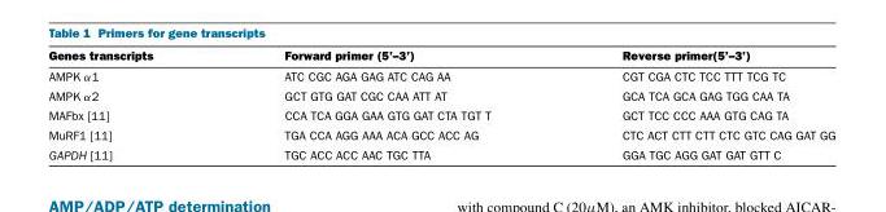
<table><thead><tr><td>Genes transcripts</td><td>Forward primer (5’–3’)</td><td>Reverse primer(5’–3’)</td></tr></thead><tbody><tr><td>AMPK α1</td><td>ATC CGC AGA GAG ATC CAG AA</td><td>CGT CGA CTC TCC TTT TCG TC</td></tr><tr><td>AMPK α2</td><td>GCT GTG GAT CGC CAA ATT AT</td><td>GCA TCA GCA GAG TGG CAA TA</td></tr><tr><td>MAFbx [11]</td><td>CCA TCA GGA GAA GTG GAT CTA TGT T</td><td>GCT TCC CCC AAA GTG CAG TA</td></tr><tr><td>MuRF1 [11]</td><td>TGA CCA AGG AAA ACA GCC ACC AG</td><td>CTC ACT CTT CTT CTC GTC CAG GAT GG</td></tr><tr><td>GAPDH [11]</td><td>TGC ACC ACC AAC TGC TTA</td><td>GGA TGC AGG GAT GAT GTT C</td></tr></tbody></table>